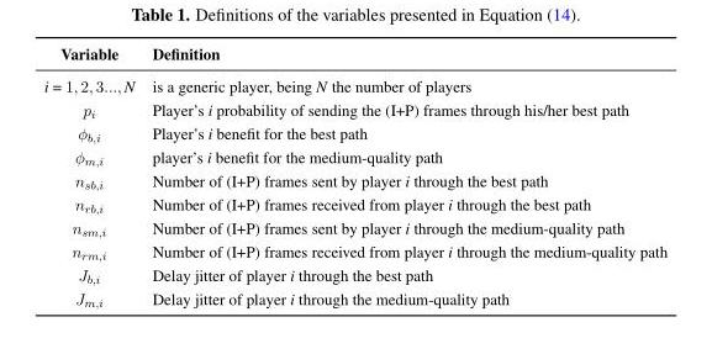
<table><thead><tr><td>Variable</td><td>Definition</td></tr></thead><tbody><tr><td>i = 1, 2, 3..., N</td><td>is a generic player, being N the number of players</td></tr><tr><td>p<sub>i</sub></td><td>Player’s i probability of sending the (I+P) frames through his/her best path</td></tr><tr><td>φ<sub>b,i</sub></td><td>Player’s i benefit for the best path</td></tr><tr><td>φ<sub>m,i</sub></td><td>player’s i benefit for the medium-quality path</td></tr><tr><td>n<sub>sb,i</sub></td><td>Number of (I+P) frames sent by player i through the best path</td></tr><tr><td>n<sub>rb,i</sub></td><td>Number of (I+P) frames received from player i through the best path</td></tr><tr><td>n<sub>sm,i</sub></td><td>Number of (I+P) frames sent by player i through the medium-quality path</td></tr><tr><td>n<sub>rm,i</sub></td><td>Number of (I+P) frames received from player i through the medium-quality path</td></tr><tr><td>J<sub>b,i</sub></td><td>Delay jitter of player i through the best path</td></tr><tr><td>J<sub>m,i</sub></td><td>Delay jitter of player i through the medium-quality path</td></tr></tbody></table>